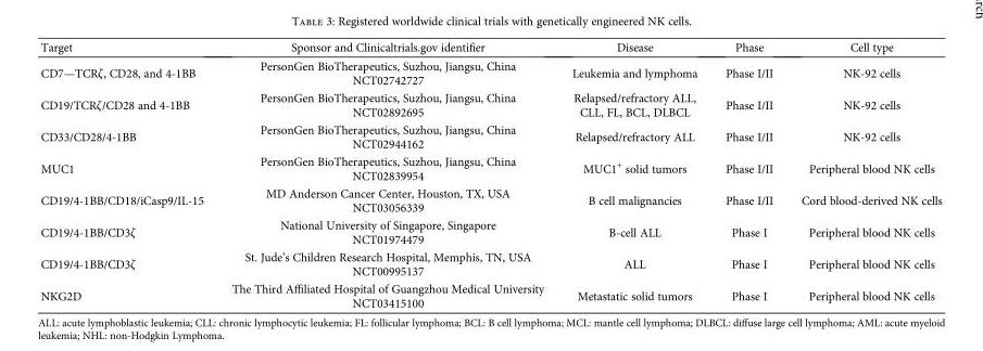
<table><thead><tr><td>Target</td><td>Sponsor and Clinicaltrials.gov identifier</td><td>Disease</td><td>Phase</td><td>Cell type</td></tr></thead><tbody><tr><td>CD7—TCRζ, CD28, and 4-1BB</td><td>PersonGen BioTherapeutics, Suzhou, Jiangsu, China NCT02742727</td><td>Leukemia and lymphoma</td><td>Phase I/II</td><td>NK-92 cells</td></tr><tr><td>CD19/TCRζ/CD28 and 4-1BB</td><td>PersonGen BioTherapeutics, Suzhou, Jiangsu, China NCT02892695</td><td>Relapsed/refractory ALL, CLL, FL, BCL, DLBCL</td><td>Phase I/II</td><td>NK-92 cells</td></tr><tr><td>CD33/CD28/4-1BB</td><td>PersonGen BioTherapeutics, Suzhou, Jiangsu, China NCT02944162</td><td>Relapsed/refractory ALL</td><td>Phase I/II</td><td>NK-92 cells</td></tr><tr><td>MUC1</td><td>PersonGen BioTherapeutics, Suzhou, Jiangsu, China NCT02839954</td><td>MUC1<sup>+</sup> solid tumors</td><td>Phase I/II</td><td>Peripheral blood NK cells</td></tr><tr><td>CD19/4-1BB/CD18/iCasp9/IL-15</td><td>MD Anderson Cancer Center, Houston, TX, USA NCT03056339</td><td>B cell malignancies</td><td>Phase I/II</td><td>Cord blood-derived NK cells</td></tr><tr><td>CD19/4-1BB/CD3ζ</td><td>National University of Singapore, Singapore NCT01974479</td><td>B-cell ALL</td><td>Phase I</td><td>Peripheral blood NK cells</td></tr><tr><td>CD19/4-1BB/CD3ζ</td><td>St. Jude’s Children Research Hospital, Memphis, TN, USA NCT00995137</td><td>ALL</td><td>Phase I</td><td>Peripheral blood NK cells</td></tr><tr><td>NKG2D</td><td>The Third Affiliated Hospital of Guangzhou Medical University NCT03415100</td><td>Metastatic solid tumors</td><td>Phase I</td><td>Peripheral blood NK cells</td></tr></tbody></table>